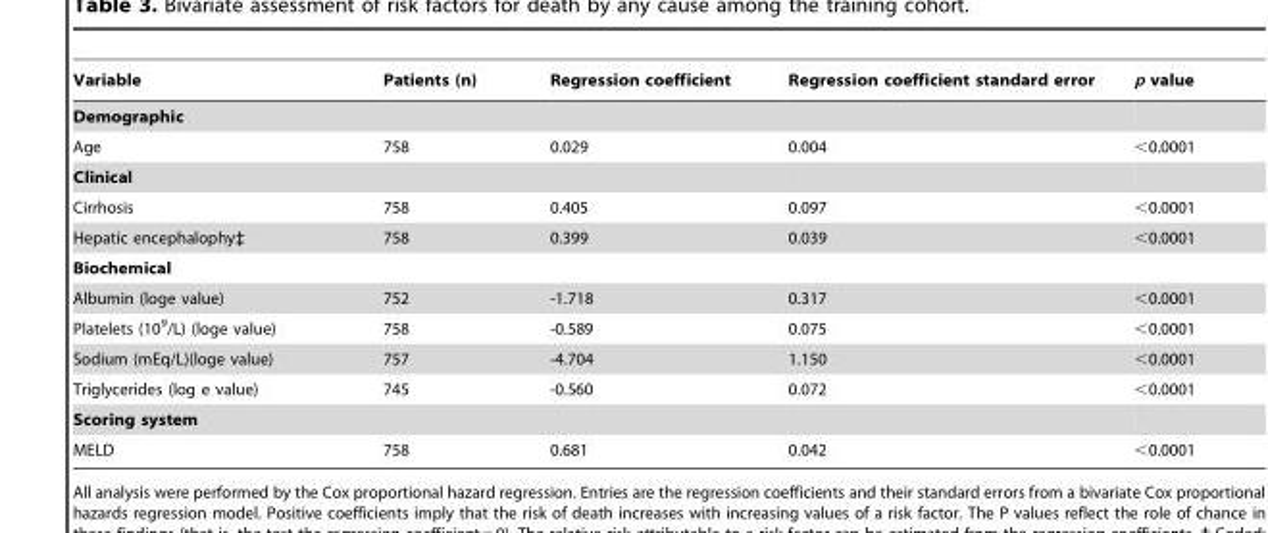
<table><thead><tr><td>Variable</td><td>Patients (n)</td><td>Regression coefficient</td><td>Regression coefficient standard error</td><td>p value</td></tr></thead><tbody><tr><td colspan="5">Demographic</td></tr><tr><td>Age</td><td>758</td><td>0.029</td><td>0.004</td><td>&lt;0.0001</td></tr><tr><td colspan="5">Clinical</td></tr><tr><td>Cirrhosis</td><td>758</td><td>0.405</td><td>0.097</td><td>&lt;0.0001</td></tr><tr><td>Hepatic encephalophy‡</td><td>758</td><td>0.399</td><td>0.039</td><td>&lt;0.0001</td></tr><tr><td colspan="5">Biochemical</td></tr><tr><td>Albumin (loge value)</td><td>752</td><td>-1.718</td><td>0.317</td><td>&lt;0.0001</td></tr><tr><td>Platelets (10<sup>9</sup>/L) (loge value)</td><td>758</td><td>-0.589</td><td>0.075</td><td>&lt;0.0001</td></tr><tr><td>Sodium (mEq/L)(loge value)</td><td>757</td><td>-4.704</td><td>1.150</td><td>&lt;0.0001</td></tr><tr><td>Triglycerides (log e value)</td><td>745</td><td>-0.560</td><td>0.072</td><td>&lt;0.0001</td></tr><tr><td colspan="5">Scoring system</td></tr><tr><td>MELD</td><td>758</td><td>0.681</td><td>0.042</td><td>&lt;0.0001</td></tr></tbody></table>